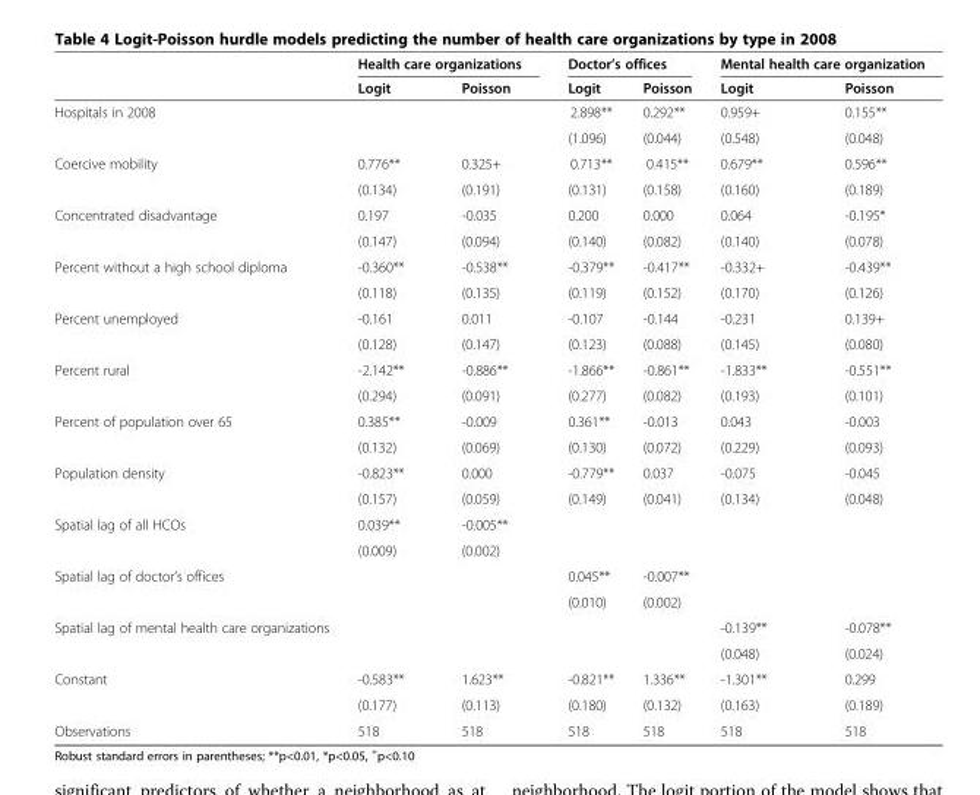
<table><thead><tr><td rowspan="2"></td><td colspan="2">Health care organizations</td><td colspan="2">Doctor’s offices</td><td colspan="2">Mental health care organization</td></tr><tr><td>Logit</td><td>Poisson</td><td>Logit</td><td>Poisson</td><td>Logit</td><td>Poisson</td></tr></thead><tbody><tr><td rowspan="2">Hospitals in 2008</td><td></td><td></td><td>2.898**</td><td>0.292**</td><td>0.959+</td><td>0.155**</td></tr><tr><td></td><td></td><td>(1.096)</td><td>(0.044)</td><td>(0.548)</td><td>(0.048)</td></tr><tr><td rowspan="2">Coercive mobility</td><td>0.776**</td><td>0.325+</td><td>0.713**</td><td>0.415**</td><td>0.679**</td><td>0.596**</td></tr><tr><td>(0.134)</td><td>(0.191)</td><td>(0.131)</td><td>(0.158)</td><td>(0.160)</td><td>(0.189)</td></tr><tr><td rowspan="2">Concentrated disadvantage</td><td>0.197</td><td>-0.035</td><td>0.200</td><td>0.000</td><td>0.064</td><td>-0.195*</td></tr><tr><td>(0.147)</td><td>(0.094)</td><td>(0.140)</td><td>(0.082)</td><td>(0.140)</td><td>(0.078)</td></tr><tr><td rowspan="2">Percent without a high school diploma</td><td>-0.360**</td><td>-0.538**</td><td>-0.379**</td><td>-0.417**</td><td>-0.332+</td><td>-0.439**</td></tr><tr><td>(0.118)</td><td>(0.135)</td><td>(0.119)</td><td>(0.152)</td><td>(0.170)</td><td>(0.126)</td></tr><tr><td rowspan="2">Percent unemployed</td><td>-0.161</td><td>0.011</td><td>-0.107</td><td>-0.144</td><td>-0.231</td><td>0.139+</td></tr><tr><td>(0.128)</td><td>(0.147)</td><td>(0.123)</td><td>(0.088)</td><td>(0.145)</td><td>(0.080)</td></tr><tr><td rowspan="2">Percent rural</td><td>-2.142**</td><td>-0.886**</td><td>-1.866**</td><td>-0.861**</td><td>-1.833**</td><td>-0.551**</td></tr><tr><td>(0.294)</td><td>(0.091)</td><td>(0.277)</td><td>(0.082)</td><td>(0.193)</td><td>(0.101)</td></tr><tr><td rowspan="2">Percent of population over 65</td><td>0.385**</td><td>-0.009</td><td>0.361**</td><td>-0.013</td><td>0.043</td><td>-0.003</td></tr><tr><td>(0.132)</td><td>(0.069)</td><td>(0.130)</td><td>(0.072)</td><td>(0.229)</td><td>(0.093)</td></tr><tr><td rowspan="2">Population density</td><td>-0.823**</td><td>0.000</td><td>-0.779**</td><td>0.037</td><td>-0.075</td><td>-0.045</td></tr><tr><td>(0.157)</td><td>(0.059)</td><td>(0.149)</td><td>(0.041)</td><td>(0.134)</td><td>(0.048)</td></tr><tr><td rowspan="2">Spatial lag of all HCOs</td><td>0.039**</td><td>-0.005**</td><td></td><td></td><td></td><td></td></tr><tr><td>(0.009)</td><td>(0.002)</td><td></td><td></td><td></td><td></td></tr><tr><td rowspan="2">Spatial lag of doctor’s offices</td><td></td><td></td><td>0.045**</td><td>-0.007**</td><td></td><td></td></tr><tr><td></td><td></td><td>(0.010)</td><td>(0.002)</td><td></td><td></td></tr><tr><td rowspan="2">Spatial lag of mental health care organizations</td><td></td><td></td><td></td><td></td><td>-0.139**</td><td>-0.078**</td></tr><tr><td></td><td></td><td></td><td></td><td>(0.048)</td><td>(0.024)</td></tr><tr><td rowspan="2">Constant</td><td>-0.583**</td><td>1.623**</td><td>-0.821**</td><td>1.336**</td><td>-1.301**</td><td>0.299</td></tr><tr><td>(0.177)</td><td>(0.113)</td><td>(0.180)</td><td>(0.132)</td><td>(0.163)</td><td>(0.189)</td></tr><tr><td>Observations</td><td>518</td><td>518</td><td>518</td><td>518</td><td>518</td><td>518</td></tr></tbody></table>